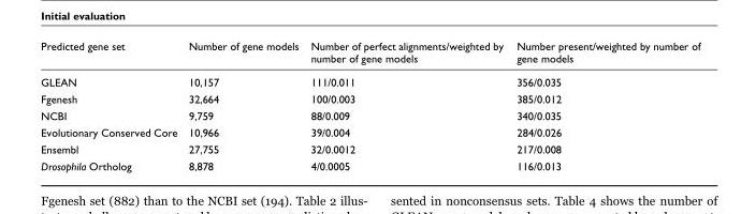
<table><thead><tr><td>Predicted gene set</td><td>Number of gene models</td><td>Number of perfect alignments/weighted by number of gene models</td><td>Number present/weighted by number of gene models</td></tr></thead><tbody><tr><td>GLEAN</td><td>10,157</td><td>111/0.011</td><td>356/0.035</td></tr><tr><td>Fgenesh</td><td>32,664</td><td>100/0.003</td><td>385/0.012</td></tr><tr><td>NCBI</td><td>9,759</td><td>88/0.009</td><td>340/0.035</td></tr><tr><td>Evolutionary Conserved Core</td><td>10,966</td><td>39/0.004</td><td>284/0.026</td></tr><tr><td>Ensembl</td><td>27,755</td><td>32/0.0012</td><td>217/0.008</td></tr><tr><td>Drosophila Ortholog</td><td>8,878</td><td>4/0.0005</td><td>116/0.013</td></tr></tbody></table>